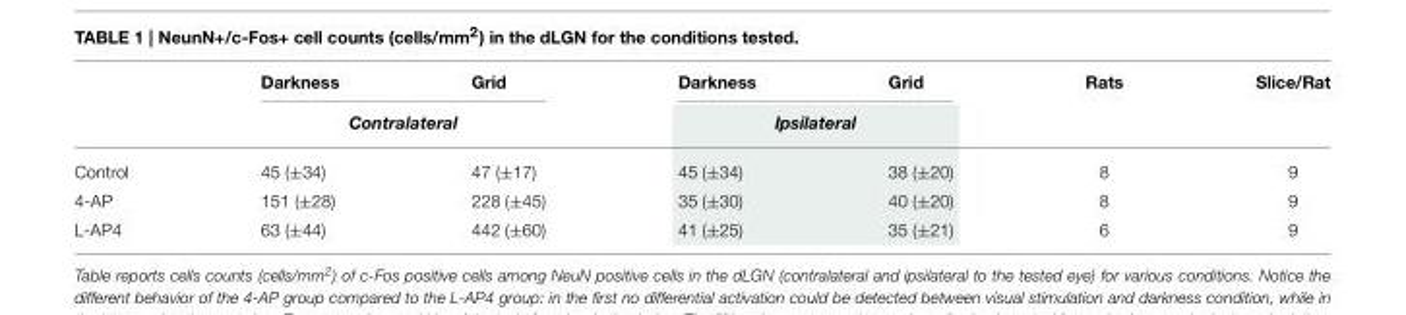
<table><thead><tr><td rowspan="2"></td><td>Darkness</td><td>Grid</td><td>Darkness</td><td>Grid</td><td rowspan="2">Rats</td><td rowspan="2">Slice/Rat</td></tr><tr><td colspan="2">Contralateral</td><td colspan="2">Ipsilateral</td></tr></thead><tbody><tr><td>Control</td><td>45 (±34)</td><td>47 (±17)</td><td>45 (±34)</td><td>38 (±20)</td><td>8</td><td>9</td></tr><tr><td>4-AP</td><td>151 (±28)</td><td>228 (±45)</td><td>35 (±30)</td><td>40 (±20)</td><td>8</td><td>9</td></tr><tr><td>L-AP4</td><td>63 (±44)</td><td>442 (±60)</td><td>41 (±25)</td><td>35 (±21)</td><td>6</td><td>9</td></tr></tbody></table>